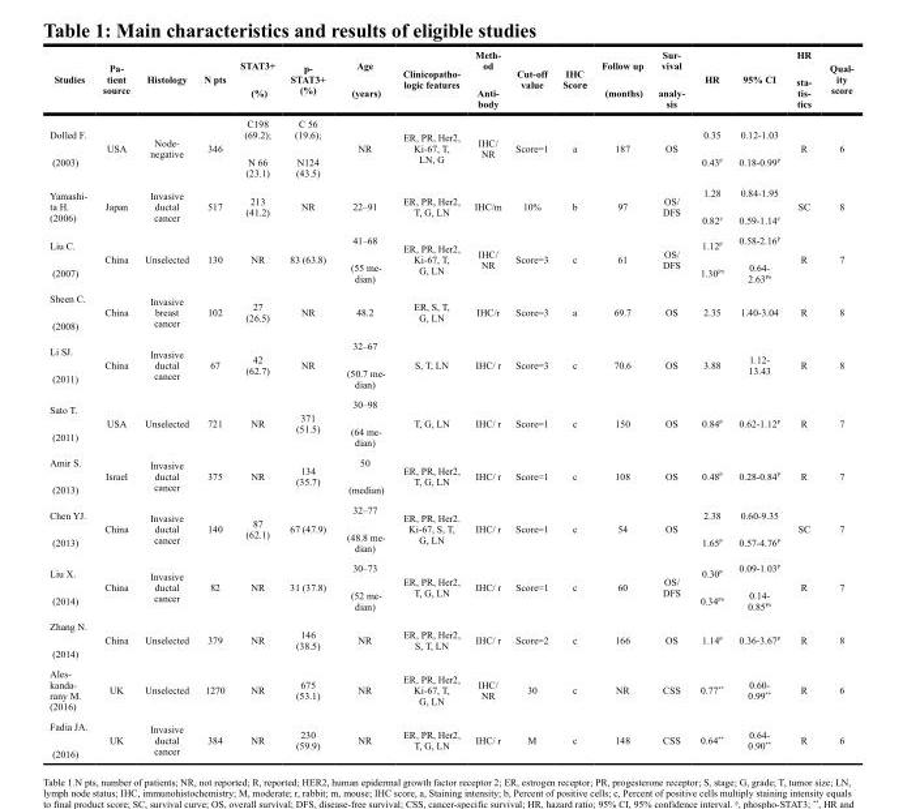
<table><thead><tr><td>Studies</td><td>Pa- tient source</td><td>Histology</td><td>N pts</td><td>STAT3+ (%)</td><td>p- STAT3+ (%)</td><td>Age (years)</td><td>Clinicopatho- logic features</td><td>Meth- od Anti- body</td><td>Cut-off value</td><td>IHC Score</td><td>Follow up (months)</td><td>Sur- vival analy- sis</td><td>HR</td><td>95% CI</td><td>HR sta- tis- tics</td><td>Qual- ity score</td></tr></thead><tbody><tr><td>Dolled F. (2003)</td><td>USA</td><td>Node- negative</td><td>346</td><td>C198 (69.2); N 66 (23.1)</td><td>C 56 (19.6); N124 (43.5)</td><td>NR</td><td>ER, PR, Her2, Ki-67, T, LN, G</td><td>IHC/ NR</td><td>Score=1</td><td>a</td><td>187</td><td>OS</td><td>0.35 0.43<sup>P</sup></td><td>0.12-1.03 0.18-0.99<sup>P</sup></td><td>R</td><td>6</td></tr><tr><td>Yamashi- ta H. (2006)</td><td>Japan</td><td>Invasive ductal cancer</td><td>517</td><td>213 (41.2)</td><td>NR</td><td>22–91</td><td>ER, PR, Her2, T, G, LN</td><td>IHC/m</td><td>10%</td><td>b</td><td>97</td><td>OS/ DFS</td><td>1.28 0.82<sup>#</sup></td><td>0.84-1.95 0.59-1.14<sup>#</sup></td><td>SC</td><td>8</td></tr><tr><td>Liu C. (2007)</td><td>China</td><td>Unselected</td><td>130</td><td>NR</td><td>83 (63.8)</td><td>41–68 (55 me- dian)</td><td>ER, PR, Her2, Ki-67, T, G, LN</td><td>IHC/ NR</td><td>Score=3</td><td>c</td><td>61</td><td>OS/ DFS</td><td>1.12<sup>P</sup> 1.30<sup>P#</sup></td><td>0.58-2.16<sup>P</sup> 0.64- 2.63<sup>P#</sup></td><td>R</td><td>7</td></tr><tr><td>Sheen C. (2008)</td><td>China</td><td>Invasive breast cancer</td><td>102</td><td>27 (26.5)</td><td>NR</td><td>48.2</td><td>ER, S, T, G, LN</td><td>IHC/r</td><td>Score=3</td><td>a</td><td>69.7</td><td>OS</td><td>2.35</td><td>1.40-3.04</td><td>R</td><td>8</td></tr><tr><td>Li SJ. (2011)</td><td>China</td><td>Invasive ductal cancer</td><td>67</td><td>42 (62.7)</td><td>NR</td><td>32–67 (50.7 me- dian)</td><td>S, T, LN</td><td>IHC/ r</td><td>Score=3</td><td>c</td><td>70.6</td><td>OS</td><td>3.88</td><td>1.12- 13.43</td><td>R</td><td>8</td></tr><tr><td>Sato T. (2011)</td><td>USA</td><td>Unselected</td><td>721</td><td>NR</td><td>371 (51.5)</td><td>30–98 (64 me- dian)</td><td>T, G, LN</td><td>IHC/ r</td><td>Score=1</td><td>c</td><td>150</td><td>OS</td><td>0.84<sup>P</sup></td><td>0.62-1.12<sup>P</sup></td><td>R</td><td>7</td></tr><tr><td>Amir S. (2013)</td><td>Israel</td><td>Invasive ductal cancer</td><td>375</td><td>NR</td><td>134 (35.7)</td><td>50 (median)</td><td>ER, PR, Her2, T, G, LN</td><td>IHC/ r</td><td>Score=1</td><td>c</td><td>108</td><td>OS</td><td>0.48<sup>P</sup></td><td>0.28-0.84<sup>P</sup></td><td>R</td><td>7</td></tr><tr><td>Chen YJ. (2013)</td><td>China</td><td>Invasive ductal cancer</td><td>140</td><td>87 (62.1)</td><td>67 (47.9)</td><td>32–77 (48.8 me- dian)</td><td>ER, PR, Her2. Ki-67, S, T, G, LN</td><td>IHC/ r</td><td>Score=1</td><td>c</td><td>54</td><td>OS</td><td>2.38 1.65<sup>P</sup></td><td>0.60-9.35 0.57-4.76<sup>P</sup></td><td>SC</td><td>7</td></tr><tr><td>Liu X. (2014)</td><td>China</td><td>Invasive ductal cancer</td><td>82</td><td>NR</td><td>31 (37.8)</td><td>30–73 (52 me- dian)</td><td>ER, PR, Her2, T, G, LN</td><td>IHC/ r</td><td>Score=1</td><td>c</td><td>60</td><td>OS/ DFS</td><td>0.30<sup>P</sup> 0.34<sup>P#</sup></td><td>0.09-1.03<sup>P</sup> 0.14- 0.85<sup>P#</sup></td><td>R</td><td>7</td></tr><tr><td>Zhang N. (2014)</td><td>China</td><td>Unselected</td><td>379</td><td>NR</td><td>146 (38.5)</td><td>NR</td><td>ER, PR, Her2, S, T, LN</td><td>IHC/ r</td><td>Score=2</td><td>c</td><td>166</td><td>OS</td><td>1.14<sup>P</sup></td><td>0.36-3.67<sup>P</sup></td><td>R</td><td>8</td></tr><tr><td>Ales- kanda- rany M. (2016)</td><td>UK</td><td>Unselected</td><td>1270</td><td>NR</td><td>675 (53.1)</td><td>NR</td><td>ER, PR, Her2, Ki-67, T, G, LN</td><td>IHC/ NR</td><td>30</td><td>c</td><td>NR</td><td>CSS</td><td>0.77**</td><td>0.60- 0.99**</td><td>R</td><td>6</td></tr><tr><td>Fadia JA. (2016)</td><td>UK</td><td>Invasive ductal cancer</td><td>384</td><td>NR</td><td>230 (59.9)</td><td>NR</td><td>ER, PR, Her2, T, G, LN</td><td>IHC/ r</td><td>M</td><td>c</td><td>148</td><td>CSS</td><td>0.64**</td><td>0.64- 0.90**</td><td>R</td><td>6</td></tr></tbody></table>